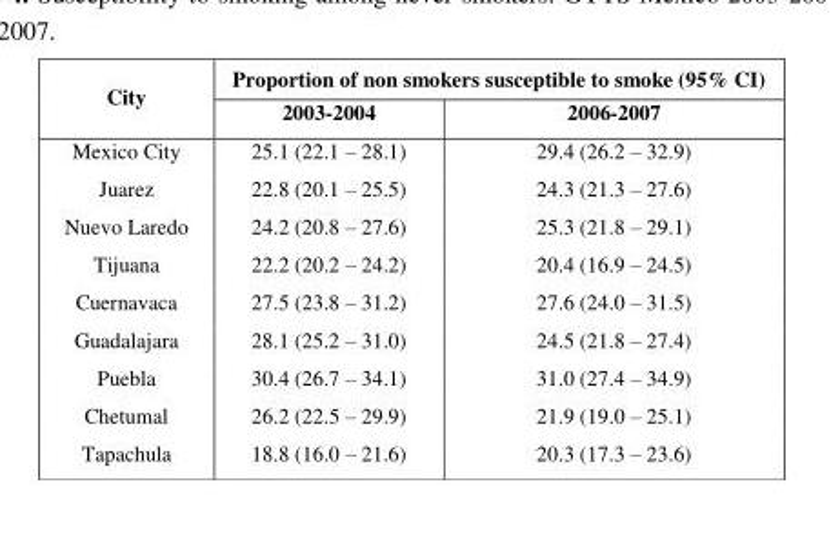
<table><thead><tr><td rowspan="2">City</td><td colspan="2">Proportion of non smokers susceptible to smoke (95% CI)</td></tr><tr><td>2003-2004</td><td>2006-2007</td></tr></thead><tbody><tr><td>Mexico City</td><td>25.1 (22.1 – 28.1)</td><td>29.4 (26.2 – 32.9)</td></tr><tr><td>Juarez</td><td>22.8 (20.1 – 25.5)</td><td>24.3 (21.3 – 27.6)</td></tr><tr><td>Nuevo Laredo</td><td>24.2 (20.8 – 27.6)</td><td>25.3 (21.8 – 29.1)</td></tr><tr><td>Tijuana</td><td>22.2 (20.2 – 24.2)</td><td>20.4 (16.9 – 24.5)</td></tr><tr><td>Cuernavaca</td><td>27.5 (23.8 – 31.2)</td><td>27.6 (24.0 – 31.5)</td></tr><tr><td>Guadalajara</td><td>28.1 (25.2 – 31.0)</td><td>24.5 (21.8 – 27.4)</td></tr><tr><td>Puebla</td><td>30.4 (26.7 – 34.1)</td><td>31.0 (27.4 – 34.9)</td></tr><tr><td>Chetumal</td><td>26.2 (22.5 – 29.9)</td><td>21.9 (19.0 – 25.1)</td></tr><tr><td>Tapachula</td><td>18.8 (16.0 – 21.6)</td><td>20.3 (17.3 – 23.6)</td></tr></tbody></table>